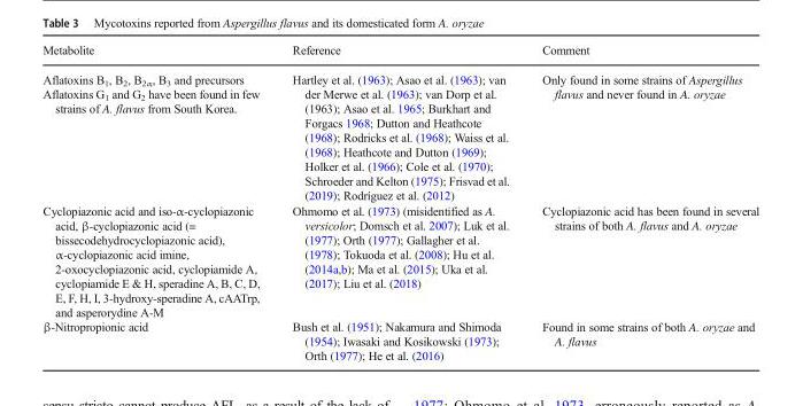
<table><thead><tr><td>Metabolite</td><td>Reference</td><td>Comment</td></tr></thead><tbody><tr><td>Aflatoxins B<sub>1</sub>, B<sub>2</sub>, B<sub>2α</sub>, B<sub>3</sub> and precursors Aflatoxins G<sub>1</sub> and G<sub>2</sub> have been found in few strains of A. flavus from South Korea.</td><td>Hartley et al. (1963); Asao et al. (1963); van der Merwe et al. (1963); van Dorp et al. (1963); Asao et al. 1965; Burkhart and Forgacs 1968; Dutton and Heathcote (1968); Rodricks et al. (1968); Waiss et al. (1968); Heathcote and Dutton (1969); Holker et al. (1966); Cole et al. (1970); Schroeder and Kelton (1975); Frisvad et al. (2019); Rodríguez et al. (2012)</td><td>Only found in some strains of Aspergillus flavus and never found in A. oryzae</td></tr><tr><td>Cyclopiazonic acid and iso-α-cyclopiazonic acid, β-cyclopiazonic acid (= bissecodehydrocyclopiazonic acid), α-cyclopiazonic acid imine, 2-oxocyclopiazonic acid, cyclopiamide A, cyclopiamide E &amp; H, speradine A, B, C, D, E, F, H, I, 3-hydroxy-speradine A, cAATrp, and asperorydine A-M</td><td>Ohmomo et al. (1973) (misidentified as A. versicolor; Domsch et al. 2007); Luk et al. (1977); Orth (1977); Gallagher et al. (1978); Tokuoda et al. (2008); Hu et al. (2014a,b); Ma et al. (2015); Uka et al. (2017); Liu et al. (2018)</td><td>Cyclopiazonic acid has been found in several strains of both A. flavus and A. oryzae</td></tr><tr><td>β-Nitropropionic acid</td><td>Bush et al. (1951); Nakamura and Shimoda (1954); Iwasaki and Kosikowski (1973); Orth (1977); He et al. (2016)</td><td>Found in some strains of both A. oryzae and A. flavus</td></tr></tbody></table>